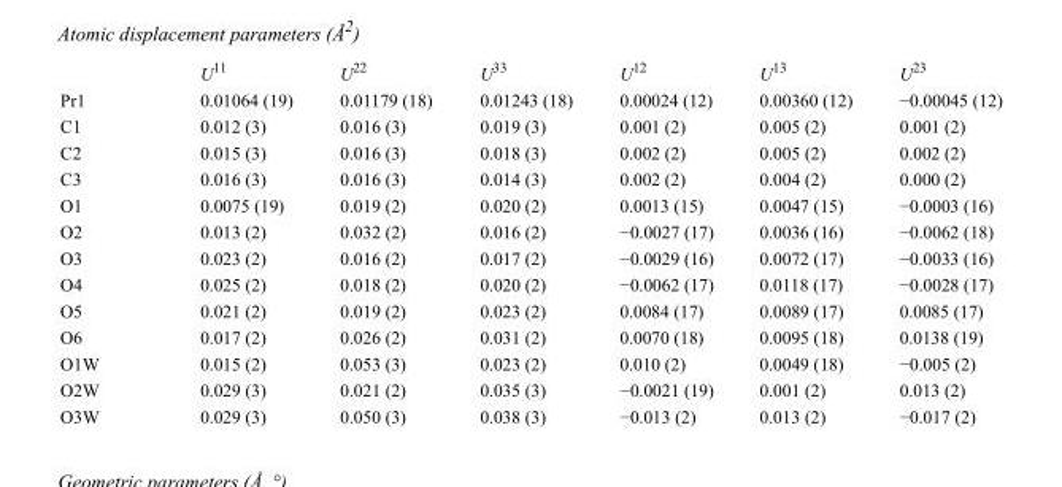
<table><thead><tr><td></td><td>U<sup>11</sup></td><td>U<sup>22</sup></td><td>U<sup>33</sup></td><td>U<sup>12</sup></td><td>U<sup>13</sup></td><td>U<sup>23</sup></td></tr></thead><tbody><tr><td>Pr1</td><td>0.01064 (19)</td><td>0.01179 (18)</td><td>0.01243 (18)</td><td>0.00024 (12)</td><td>0.00360 (12)</td><td>−0.00045 (12)</td></tr><tr><td>C1</td><td>0.012 (3)</td><td>0.016 (3)</td><td>0.019 (3)</td><td>0.001 (2)</td><td>0.005 (2)</td><td>0.001 (2)</td></tr><tr><td>C2</td><td>0.015 (3)</td><td>0.016 (3)</td><td>0.018 (3)</td><td>0.002 (2)</td><td>0.005 (2)</td><td>0.002 (2)</td></tr><tr><td>C3</td><td>0.016 (3)</td><td>0.016 (3)</td><td>0.014 (3)</td><td>0.002 (2)</td><td>0.004 (2)</td><td>0.000 (2)</td></tr><tr><td>O1</td><td>0.0075 (19)</td><td>0.019 (2)</td><td>0.020 (2)</td><td>0.0013 (15)</td><td>0.0047 (15)</td><td>−0.0003 (16)</td></tr><tr><td>O2</td><td>0.013 (2)</td><td>0.032 (2)</td><td>0.016 (2)</td><td>−0.0027 (17)</td><td>0.0036 (16)</td><td>−0.0062 (18)</td></tr><tr><td>O3</td><td>0.023 (2)</td><td>0.016 (2)</td><td>0.017 (2)</td><td>−0.0029 (16)</td><td>0.0072 (17)</td><td>−0.0033 (16)</td></tr><tr><td>O4</td><td>0.025 (2)</td><td>0.018 (2)</td><td>0.020 (2)</td><td>−0.0062 (17)</td><td>0.0118 (17)</td><td>−0.0028 (17)</td></tr><tr><td>O5</td><td>0.021 (2)</td><td>0.019 (2)</td><td>0.023 (2)</td><td>0.0084 (17)</td><td>0.0089 (17)</td><td>0.0085 (17)</td></tr><tr><td>O6</td><td>0.017 (2)</td><td>0.026 (2)</td><td>0.031 (2)</td><td>0.0070 (18)</td><td>0.0095 (18)</td><td>0.0138 (19)</td></tr><tr><td>O1W</td><td>0.015 (2)</td><td>0.053 (3)</td><td>0.023 (2)</td><td>0.010 (2)</td><td>0.0049 (18)</td><td>−0.005 (2)</td></tr><tr><td>O2W</td><td>0.029 (3)</td><td>0.021 (2)</td><td>0.035 (3)</td><td>−0.0021 (19)</td><td>0.001 (2)</td><td>0.013 (2)</td></tr><tr><td>O3W</td><td>0.029 (3)</td><td>0.050 (3)</td><td>0.038 (3)</td><td>−0.013 (2)</td><td>0.013 (2)</td><td>−0.017 (2)</td></tr></tbody></table>